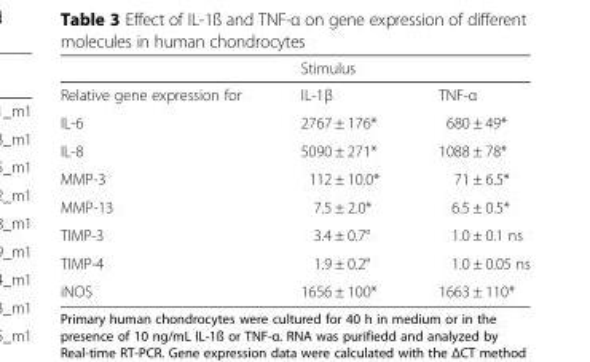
<table><thead><tr><td rowspan="2">Relative gene expression for</td><td colspan="2">Stimulus</td></tr><tr><td>IL-1β</td><td>TNF-α</td></tr></thead><tbody><tr><td>IL-6</td><td>2767 ± 176*</td><td>680 ± 49*</td></tr><tr><td>IL-8</td><td>5090 ± 271*</td><td>1088 ± 78*</td></tr><tr><td>MMP-3</td><td>112 ± 10.0*</td><td>71 ± 6.5*</td></tr><tr><td>MMP-13</td><td>7.5 ± 2.0*</td><td>6.5 ± 0.5*</td></tr><tr><td>TIMP-3</td><td>3.4 ± 0.7°</td><td>1.0 ± 0.1 ns</td></tr><tr><td>TIMP-4</td><td>1.9 ± 0.2°</td><td>1.0 ± 0.05 ns</td></tr><tr><td>iNOS</td><td>1656 ± 100*</td><td>1663 ± 110*</td></tr></tbody></table>